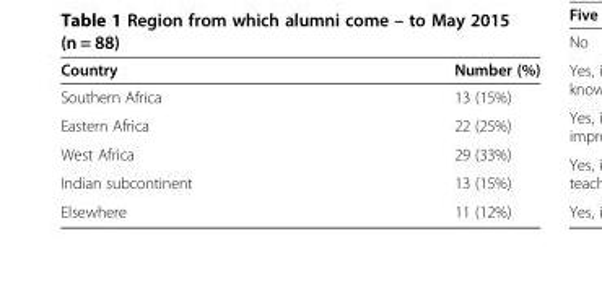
<table><thead><tr><td>Country</td><td>Number (%)</td></tr></thead><tbody><tr><td>Southern Africa</td><td>13 (15%)</td></tr><tr><td>Eastern Africa</td><td>22 (25%)</td></tr><tr><td>West Africa</td><td>29 (33%)</td></tr><tr><td>Indian subcontinent</td><td>13 (15%)</td></tr><tr><td>Elsewhere</td><td>11 (12%)</td></tr></tbody></table>